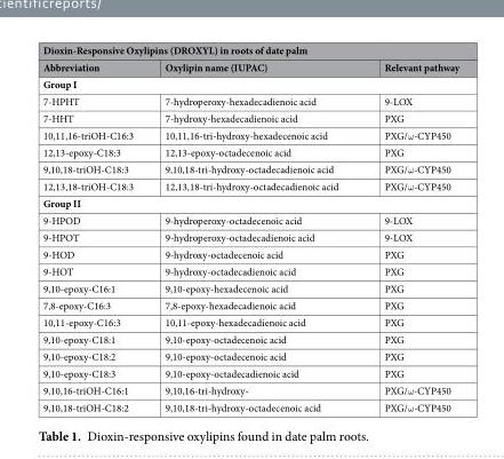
<table><thead><tr><td colspan="3">Dioxin-Responsive Oxylipins (DROXYL) in roots of date palm</td></tr><tr><td>Abbreviation</td><td>Oxylipin name (IUPAC)</td><td>Relevant pathway</td></tr></thead><tbody><tr><td colspan="3">Group I</td></tr><tr><td>7-HPHT</td><td>7-hydroperoxy-hexadecadienoic acid</td><td>9-LOX</td></tr><tr><td>7-HHT</td><td>7-hydroxy-hexadecadienoic acid</td><td>PXG</td></tr><tr><td>10,11,16-triOH-C16:3</td><td>10,11,16-tri-hydroxy-hexadecenoic acid</td><td>PXG/ω-CYP450</td></tr><tr><td>12,13-epoxy-C18:3</td><td>12,13-epoxy-octadecenoic acid</td><td>PXG</td></tr><tr><td>9,10,18-triOH-C18:3</td><td>9,10,18-tri-hydroxy-octadecadienoic acid</td><td>PXG/ω-CYP450</td></tr><tr><td>12,13,18-triOH-C18:3</td><td>12,13,18-tri-hydroxy-octadecadienoic acid</td><td>PXG/ω-CYP450</td></tr><tr><td colspan="3">Group II</td></tr><tr><td>9-HPOD</td><td>9-hydroperoxy-octadecenoic acid</td><td>9-LOX</td></tr><tr><td>9-HPOT</td><td>9-hydroperoxy-octadecadienoic acid</td><td>9-LOX</td></tr><tr><td>9-HOD</td><td>9-hydroxy-octadecenoic acid</td><td>PXG</td></tr><tr><td>9-HOT</td><td>9-hydroxy-octadecadienoic acid</td><td>PXG</td></tr><tr><td>9,10-epoxy-C16:1</td><td>9,10-epoxy-hexadecenoic acid</td><td>PXG</td></tr><tr><td>7,8-epoxy-C16:3</td><td>7,8-epoxy-hexadecadienoic acid</td><td>PXG</td></tr><tr><td>10,11-epoxy-C16:3</td><td>10,11-epoxy-hexadecadienoic acid</td><td>PXG</td></tr><tr><td>9,10-epoxy-C18:1</td><td>9,10-epoxy-octadecenoic acid</td><td>PXG</td></tr><tr><td>9,10-epoxy-C18:2</td><td>9,10-epoxy-octadecenoic acid</td><td>PXG</td></tr><tr><td>9,10-epoxy-C18:3</td><td>9,10-epoxy-octadecadienoic acid</td><td>PXG</td></tr><tr><td>9,10,16-triOH-C16:1</td><td>9,10,16-tri-hydroxy-</td><td>PXG/ω-CYP450</td></tr><tr><td>9,10,18-triOH-C18:2</td><td>9,10,18-tri-hydroxy-octadecenoic acid</td><td>PXG/ω-CYP450</td></tr></tbody></table>